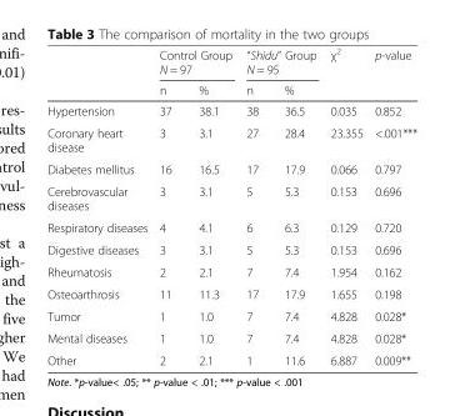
<table><thead><tr><td rowspan="2"></td><td colspan="2">Control Group N = 97</td><td colspan="2">“Shidu” Group N = 95</td><td rowspan="2">χ<sup>2</sup></td><td rowspan="2">p-value</td></tr><tr><td>n</td><td>%</td><td>n</td><td>%</td></tr></thead><tbody><tr><td>Hypertension</td><td>37</td><td>38.1</td><td>38</td><td>36.5</td><td>0.035</td><td>0.852</td></tr><tr><td>Coronary heart disease</td><td>3</td><td>3.1</td><td>27</td><td>28.4</td><td>23.355</td><td>&lt;.001***</td></tr><tr><td>Diabetes mellitus</td><td>16</td><td>16.5</td><td>17</td><td>17.9</td><td>0.066</td><td>0.797</td></tr><tr><td>Cerebrovascular diseases</td><td>3</td><td>3.1</td><td>5</td><td>5.3</td><td>0.153</td><td>0.696</td></tr><tr><td>Respiratory diseases</td><td>4</td><td>4.1</td><td>6</td><td>6.3</td><td>0.129</td><td>0.720</td></tr><tr><td>Digestive diseases</td><td>3</td><td>3.1</td><td>5</td><td>5.3</td><td>0.153</td><td>0.696</td></tr><tr><td>Rheumatosis</td><td>2</td><td>2.1</td><td>7</td><td>7.4</td><td>1.954</td><td>0.162</td></tr><tr><td>Osteoarthrosis</td><td>11</td><td>11.3</td><td>17</td><td>17.9</td><td>1.655</td><td>0.198</td></tr><tr><td>Tumor</td><td>1</td><td>1.0</td><td>7</td><td>7.4</td><td>4.828</td><td>0.028*</td></tr><tr><td>Mental diseases</td><td>1</td><td>1.0</td><td>7</td><td>7.4</td><td>4.828</td><td>0.028*</td></tr><tr><td>Other</td><td>2</td><td>2.1</td><td>1</td><td>11.6</td><td>6.887</td><td>0.009**</td></tr></tbody></table>